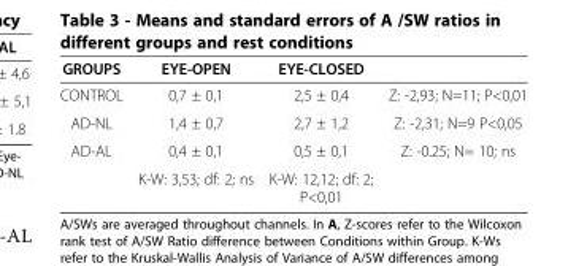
<table><thead><tr><td>GROUPS</td><td>EYE-OPEN</td><td>EYE-CLOSED</td><td></td></tr></thead><tbody><tr><td>CONTROL</td><td>0,7 ± 0,1</td><td>2,5 ± 0,4</td><td>Z: -2,93; N=11; P&lt;0,01</td></tr><tr><td>AD-NL</td><td>1,4 ± 0,7</td><td>2,7 ± 1,2</td><td>Z: -2,31; N=9 P&lt;0,05</td></tr><tr><td rowspan="2">AD-AL</td><td>0,4 ± 0,1</td><td>0,5 ± 0,1</td><td>Z: -0.25; N= 10; ns</td></tr><tr><td>K-W: 3,53; df: 2; ns</td><td>K-W: 12,12; df: 2; P&lt;0,01</td><td></td></tr></tbody></table>